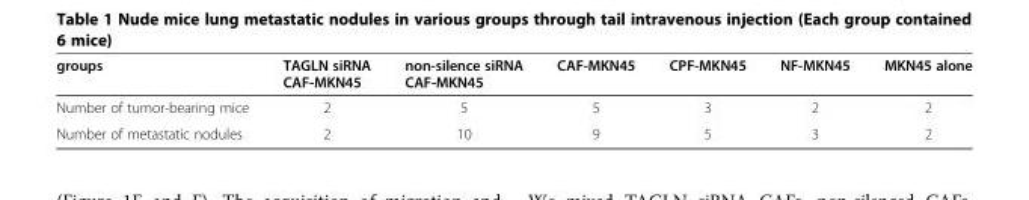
<table><thead><tr><td>groups</td><td>TAGLN siRNA CAF-MKN45</td><td>non-silence siRNA CAF-MKN45</td><td>CAF-MKN45</td><td>CPF-MKN45</td><td>NF-MKN45</td><td>MKN45 alone</td></tr></thead><tbody><tr><td>Number of tumor-bearing mice</td><td>2</td><td>5</td><td>5</td><td>3</td><td>2</td><td>2</td></tr><tr><td>Number of metastatic nodules</td><td>2</td><td>10</td><td>9</td><td>5</td><td>3</td><td>2</td></tr></tbody></table>